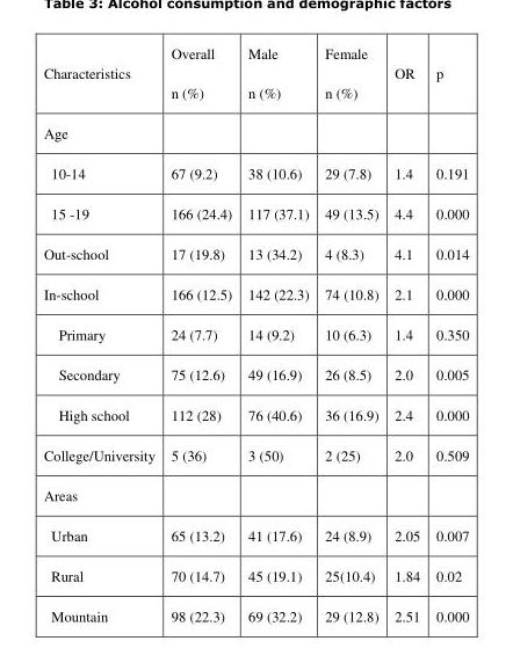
<table><thead><tr><td>Characteristics</td><td>Overall n (%)</td><td>Male n (%)</td><td>Female n (%)</td><td>OR</td><td>p</td></tr></thead><tbody><tr><td colspan="6">Age</td></tr><tr><td>10-14</td><td>67 (9.2)</td><td>38 (10.6)</td><td>29 (7.8)</td><td>1.4</td><td>0.191</td></tr><tr><td>15 -19</td><td>166 (24.4)</td><td>117 (37.1)</td><td>49 (13.5)</td><td>4.4</td><td>0.000</td></tr><tr><td>Out-school</td><td>17 (19.8)</td><td>13 (34.2)</td><td>4 (8.3)</td><td>4.1</td><td>0.014</td></tr><tr><td>In-school</td><td>166 (12.5)</td><td>142 (22.3)</td><td>74 (10.8)</td><td>2.1</td><td>0.000</td></tr><tr><td>Primary</td><td>24 (7.7)</td><td>14 (9.2)</td><td>10 (6.3)</td><td>1.4</td><td>0.350</td></tr><tr><td>Secondary</td><td>75 (12.6)</td><td>49 (16.9)</td><td>26 (8.5)</td><td>2.0</td><td>0.005</td></tr><tr><td>High school</td><td>112 (28)</td><td>76 (40.6)</td><td>36 (16.9)</td><td>2.4</td><td>0.000</td></tr><tr><td>College/University</td><td>5 (36)</td><td>3 (50)</td><td>2 (25)</td><td>2.0</td><td>0.509</td></tr><tr><td colspan="6">Areas</td></tr><tr><td>Urban</td><td>65 (13.2)</td><td>41 (17.6)</td><td>24 (8.9)</td><td>2.05</td><td>0.007</td></tr><tr><td>Rural</td><td>70 (14.7)</td><td>45 (19.1)</td><td>25(10.4)</td><td>1.84</td><td>0.02</td></tr><tr><td>Mountain</td><td>98 (22.3)</td><td>69 (32.2)</td><td>29 (12.8)</td><td>2.51</td><td>0.000</td></tr></tbody></table>